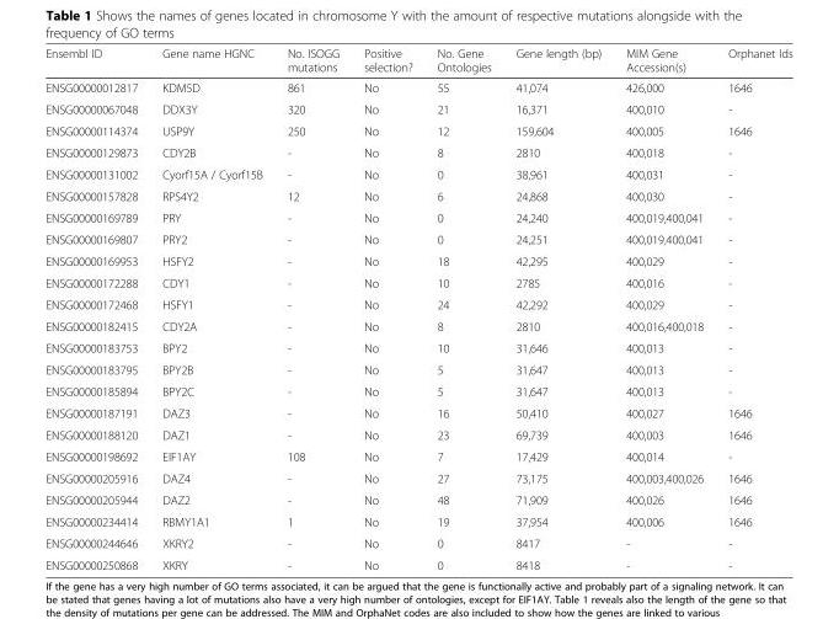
<table><thead><tr><td>Ensembl ID</td><td>Gene name HGNC</td><td>No. ISOGG mutations</td><td>Positive selection?</td><td>No. Gene Ontologies</td><td>Gene length (bp)</td><td>MIM Gene Accession(s)</td><td>Orphanet Ids</td></tr></thead><tbody><tr><td>ENSG00000012817</td><td>KDM5D</td><td>861</td><td>No</td><td>55</td><td>41,074</td><td>426,000</td><td>1646</td></tr><tr><td>ENSG00000067048</td><td>DDX3Y</td><td>320</td><td>No</td><td>21</td><td>16,371</td><td>400,010</td><td>-</td></tr><tr><td>ENSG00000114374</td><td>USP9Y</td><td>250</td><td>No</td><td>12</td><td>159,604</td><td>400,005</td><td>1646</td></tr><tr><td>ENSG00000129873</td><td>CDY2B</td><td>-</td><td>No</td><td>8</td><td>2810</td><td>400,018</td><td>-</td></tr><tr><td>ENSG00000131002</td><td>Cyorf15A / Cyorf15B</td><td>-</td><td>No</td><td>0</td><td>38,961</td><td>400,031</td><td>-</td></tr><tr><td>ENSG00000157828</td><td>RPS4Y2</td><td>12</td><td>No</td><td>6</td><td>24,868</td><td>400,030</td><td>-</td></tr><tr><td>ENSG00000169789</td><td>PRY</td><td>-</td><td>No</td><td>0</td><td>24,240</td><td>400,019,400,041</td><td>-</td></tr><tr><td>ENSG00000169807</td><td>PRY2</td><td>-</td><td>No</td><td>0</td><td>24,251</td><td>400,019,400,041</td><td>-</td></tr><tr><td>ENSG00000169953</td><td>HSFY2</td><td>-</td><td>No</td><td>18</td><td>42,295</td><td>400,029</td><td>-</td></tr><tr><td>ENSG00000172288</td><td>CDY1</td><td>-</td><td>No</td><td>10</td><td>2785</td><td>400,016</td><td>-</td></tr><tr><td>ENSG00000172468</td><td>HSFY1</td><td>-</td><td>No</td><td>24</td><td>42,292</td><td>400,029</td><td>-</td></tr><tr><td>ENSG00000182415</td><td>CDY2A</td><td>-</td><td>No</td><td>8</td><td>2810</td><td>400,016,400,018</td><td>-</td></tr><tr><td>ENSG00000183753</td><td>BPY2</td><td>-</td><td>No</td><td>10</td><td>31,646</td><td>400,013</td><td>-</td></tr><tr><td>ENSG00000183795</td><td>BPY2B</td><td>-</td><td>No</td><td>5</td><td>31,647</td><td>400,013</td><td>-</td></tr><tr><td>ENSG00000185894</td><td>BPY2C</td><td>-</td><td>No</td><td>5</td><td>31,647</td><td>400,013</td><td>-</td></tr><tr><td>ENSG00000187191</td><td>DAZ3</td><td>-</td><td>No</td><td>16</td><td>50,410</td><td>400,027</td><td>1646</td></tr><tr><td>ENSG00000188120</td><td>DAZ1</td><td>-</td><td>No</td><td>23</td><td>69,739</td><td>400,003</td><td>1646</td></tr><tr><td>ENSG00000198692</td><td>EIF1AY</td><td>108</td><td>No</td><td>7</td><td>17,429</td><td>400,014</td><td>-</td></tr><tr><td>ENSG00000205916</td><td>DAZ4</td><td>-</td><td>No</td><td>27</td><td>73,175</td><td>400,003,400,026</td><td>1646</td></tr><tr><td>ENSG00000205944</td><td>DAZ2</td><td>-</td><td>No</td><td>48</td><td>71,909</td><td>400,026</td><td>1646</td></tr><tr><td>ENSG00000234414</td><td>RBMY1A1</td><td>1</td><td>No</td><td>19</td><td>37,954</td><td>400,006</td><td>1646</td></tr><tr><td>ENSG00000244646</td><td>XKRY2</td><td>-</td><td>No</td><td>0</td><td>8417</td><td>-</td><td>-</td></tr><tr><td>ENSG00000250868</td><td>XKRY</td><td>-</td><td>No</td><td>0</td><td>8418</td><td>-</td><td>-</td></tr></tbody></table>